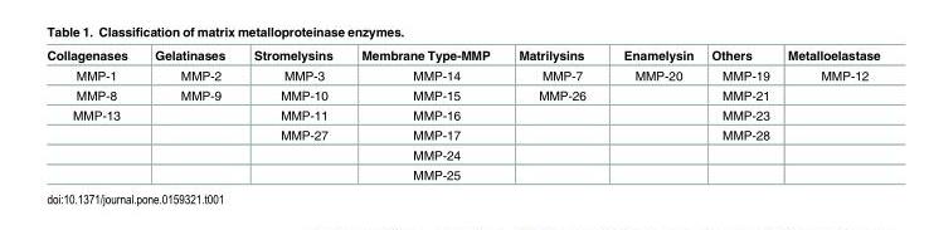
<table><thead><tr><td>Collagenases</td><td>Gelatinases</td><td>Stromelysins</td><td>Membrane Type-MMP</td><td>Matrilysins</td><td>Enamelysin</td><td>Others</td><td>Metalloelastase</td></tr></thead><tbody><tr><td>MMP-1</td><td>MMP-2</td><td>MMP-3</td><td>MMP-14</td><td>MMP-7</td><td>MMP-20</td><td>MMP-19</td><td>MMP-12</td></tr><tr><td>MMP-8</td><td>MMP-9</td><td>MMP-10</td><td>MMP-15</td><td>MMP-26</td><td></td><td>MMP-21</td><td></td></tr><tr><td rowspan="4">MMP-13</td><td></td><td>MMP-11</td><td>MMP-16</td><td></td><td></td><td>MMP-23</td><td></td></tr><tr><td></td><td>MMP-27</td><td>MMP-17</td><td></td><td></td><td>MMP-28</td><td></td></tr><tr><td></td><td></td><td>MMP-24</td><td></td><td></td><td></td><td></td></tr><tr><td></td><td></td><td>MMP-25</td><td></td><td></td><td></td><td></td></tr></tbody></table>